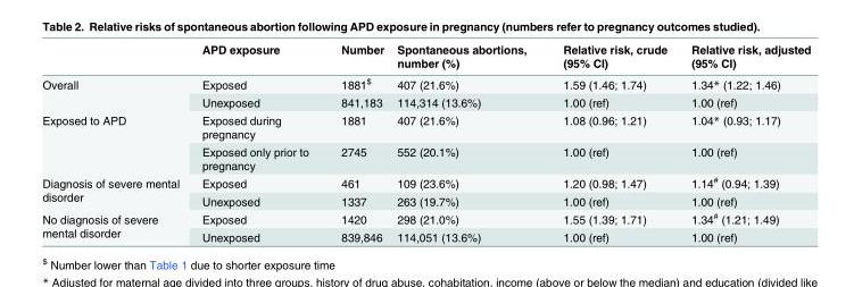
<table><thead><tr><td></td><td>APD exposure</td><td>Number</td><td>Spontaneous abortions, number (%)</td><td>Relative risk, crude (95% CI)</td><td>Relative risk, adjusted (95% CI)</td></tr></thead><tbody><tr><td rowspan="2">Overall</td><td>Exposed</td><td>1881<sup>$</sup></td><td>407 (21.6%)</td><td>1.59 (1.46; 1.74)</td><td>1.34* (1.22; 1.46)</td></tr><tr><td>Unexposed</td><td>841,183</td><td>114,314 (13.6%)</td><td>1.00 (ref)</td><td>1.00 (ref)</td></tr><tr><td rowspan="2">Exposed to APD</td><td>Exposed during pregnancy</td><td>1881</td><td>407 (21.6%)</td><td>1.08 (0.96; 1.21)</td><td>1.04* (0.93; 1.17)</td></tr><tr><td>Exposed only prior to pregnancy</td><td>2745</td><td>552 (20.1%)</td><td>1.00 (ref)</td><td>1.00 (ref)</td></tr><tr><td rowspan="2">Diagnosis of severe mental disorder</td><td>Exposed</td><td>461</td><td>109 (23.6%)</td><td>1.20 (0.98; 1.47)</td><td>1.14<sup>#</sup> (0.94; 1.39)</td></tr><tr><td>Unexposed</td><td>1337</td><td>263 (19.7%)</td><td>1.00 (ref)</td><td>1.00 (ref)</td></tr><tr><td rowspan="2">No diagnosis of severe mental disorder</td><td>Exposed</td><td>1420</td><td>298 (21.0%)</td><td>1.55 (1.39; 1.71)</td><td>1.34<sup>#</sup> (1.21; 1.49)</td></tr><tr><td>Unexposed</td><td>839,846</td><td>114,051 (13.6%)</td><td>1.00 (ref)</td><td>1.00 (ref)</td></tr></tbody></table>